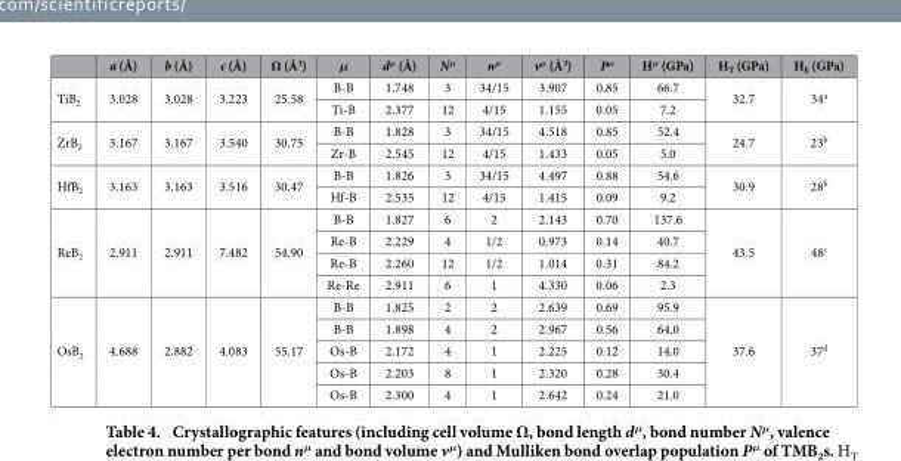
<table><thead><tr><td></td><td>a (Å)</td><td>b (Å)</td><td>c (Å)</td><td>Ω (Å<sup>3</sup>)</td><td>μ</td><td>d<sup>μ</sup> (Å)</td><td>N<sup>μ</sup></td><td>n<sup>μ</sup></td><td>v<sup>μ</sup> (Å<sup>3</sup>)</td><td>P<sup>μ</sup></td><td>H<sup>μ</sup> (GPa)</td><td>H<sub>T</sub> (GPa)</td><td>H<sub>E</sub> (GPa)</td></tr></thead><tbody><tr><td rowspan="2">TiB<sub>2</sub></td><td rowspan="2">3.028</td><td rowspan="2">3.028</td><td rowspan="2">3.223</td><td rowspan="2">25.58</td><td>B-B</td><td>1.748</td><td>3</td><td>34/15</td><td>3.907</td><td>0.85</td><td>66.7</td><td rowspan="2">32.7</td><td rowspan="2">34<sup>a</sup></td></tr><tr><td>Ti-B</td><td>2.377</td><td>12</td><td>4/15</td><td>1.155</td><td>0.05</td><td>7.2</td></tr><tr><td rowspan="2">ZrB<sub>2</sub></td><td rowspan="2">3.167</td><td rowspan="2">3.167</td><td rowspan="2">3.540</td><td rowspan="2">30.75</td><td>B-B</td><td>1.828</td><td>3</td><td>34/15</td><td>4.518</td><td>0.85</td><td>52.4</td><td rowspan="2">24.7</td><td rowspan="2">23<sup>b</sup></td></tr><tr><td>Zr-B</td><td>2.545</td><td>12</td><td>4/15</td><td>1.433</td><td>0.05</td><td>5.0</td></tr><tr><td rowspan="2">HfB<sub>2</sub></td><td rowspan="2">3.163</td><td rowspan="2">3.163</td><td rowspan="2">3.516</td><td rowspan="2">30.47</td><td>B-B</td><td>1.826</td><td>3</td><td>34/15</td><td>4.497</td><td>0.88</td><td>54.6</td><td rowspan="2">30.9</td><td rowspan="2">28<sup>b</sup></td></tr><tr><td>Hf-B</td><td>2.535</td><td>12</td><td>4/15</td><td>1.415</td><td>0.09</td><td>9.2</td></tr><tr><td rowspan="4">ReB<sub>2</sub></td><td rowspan="4">2.911</td><td rowspan="4">2.911</td><td rowspan="4">7.482</td><td rowspan="4">54.90</td><td>B-B</td><td>1.827</td><td>6</td><td>2</td><td>2.143</td><td>0.70</td><td>137.6</td><td rowspan="4">43.5</td><td rowspan="4">48<sup>c</sup></td></tr><tr><td>Re-B</td><td>2.229</td><td>4</td><td>1/2</td><td>0.973</td><td>0.14</td><td>40.7</td></tr><tr><td>Re-B</td><td>2.260</td><td>12</td><td>1/2</td><td>1.014</td><td>0.31</td><td>84.2</td></tr><tr><td>Re-Re</td><td>2.911</td><td>6</td><td>1</td><td>4.330</td><td>0.06</td><td>2.3</td></tr><tr><td rowspan="5">OsB<sub>2</sub></td><td rowspan="5">4.688</td><td rowspan="5">2.882</td><td rowspan="5">4.083</td><td rowspan="5">55.17</td><td>B-B</td><td>1.825</td><td>2</td><td>2</td><td>2.639</td><td>0.69</td><td>95.9</td><td rowspan="5">37.6</td><td rowspan="5">37<sup>d</sup></td></tr><tr><td>B-B</td><td>1.898</td><td>4</td><td>2</td><td>2.967</td><td>0.56</td><td>64.0</td></tr><tr><td>Os-B</td><td>2.172</td><td>4</td><td>1</td><td>2.225</td><td>0.12</td><td>14.0</td></tr><tr><td>Os-B</td><td>2.203</td><td>8</td><td>1</td><td>2.320</td><td>0.28</td><td>30.4</td></tr><tr><td>Os-B</td><td>2.300</td><td>4</td><td>1</td><td>2.642</td><td>0.24</td><td>21.0</td></tr></tbody></table>